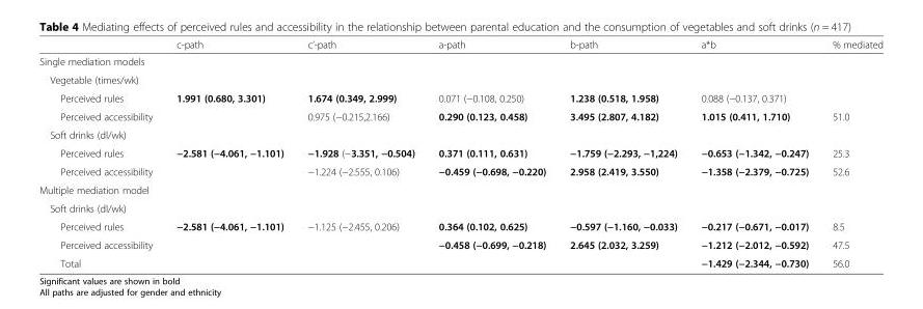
<table><thead><tr><td></td><td>c-path</td><td>c’-path</td><td>a-path</td><td>b-path</td><td>a*b</td><td>% mediated</td></tr></thead><tbody><tr><td colspan="7">Single mediation models</td></tr><tr><td colspan="7">Vegetable (times/wk)</td></tr><tr><td>Perceived rules</td><td rowspan="2">1.991 (0.680, 3.301)</td><td>1.674 (0.349, 2.999)</td><td>0.071 (−0.108, 0.250)</td><td>1.238 (0.518, 1.958)</td><td>0.088 (−0.137, 0.371)</td><td></td></tr><tr><td>Perceived accessibility</td><td>0.975 (−0.215,2.166)</td><td>0.290 (0.123, 0.458)</td><td>3.495 (2.807, 4.182)</td><td>1.015 (0.411, 1.710)</td><td>51.0</td></tr><tr><td colspan="7">Soft drinks (dl/wk)</td></tr><tr><td>Perceived rules</td><td rowspan="2">−2.581 (−4.061, −1.101)</td><td>−1.928 (−3.351, −0.504)</td><td>0.371 (0.111, 0.631)</td><td>−1.759 (−2.293, −1,224)</td><td>−0.653 (−1.342, −0.247)</td><td>25.3</td></tr><tr><td>Perceived accessibility</td><td>−1.224 (−2.555, 0.106)</td><td>−0.459 (−0.698, −0.220)</td><td>2.958 (2.419, 3.550)</td><td>−1.358 (−2.379, −0.725)</td><td>52.6</td></tr><tr><td colspan="7">Multiple mediation model</td></tr><tr><td colspan="7">Soft drinks (dl/wk)</td></tr><tr><td>Perceived rules</td><td rowspan="2">−2.581 (−4.061, −1.101)</td><td rowspan="2">−1.125 (−2.455, 0.206)</td><td>0.364 (0.102, 0.625)</td><td>−0.597 (−1.160, −0.033)</td><td>−0.217 (−0.671, −0.017)</td><td>8.5</td></tr><tr><td>Perceived accessibility</td><td>−0.458 (−0.699, −0.218)</td><td>2.645 (2.032, 3.259)</td><td>−1.212 (−2.012, −0.592)</td><td>47.5</td></tr><tr><td>Total</td><td></td><td></td><td></td><td></td><td>−1.429 (−2.344, −0.730)</td><td>56.0</td></tr></tbody></table>